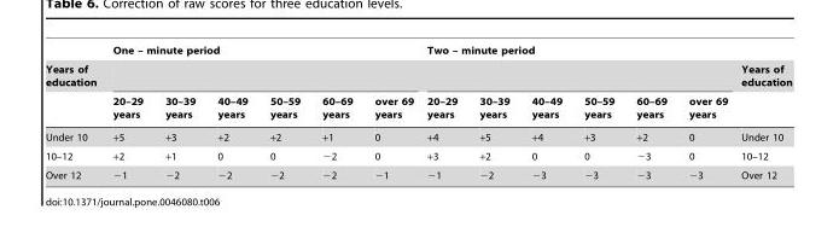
<table><thead><tr><td rowspan="3">Years of education</td><td colspan="6">One – minute period</td><td colspan="6">Two – minute period</td><td rowspan="3">Years of education</td></tr><tr><td rowspan="2">20–29 years</td><td rowspan="2">30–39 years</td><td rowspan="2">40–49 years</td><td rowspan="2">50–59 years</td><td rowspan="2">60–69 years</td><td rowspan="2">over 69 years</td><td rowspan="2">20–29 years</td><td rowspan="2">30–39 years</td><td rowspan="2">40–49 years</td><td rowspan="2">50–59 years</td><td rowspan="2">60–69 years</td><td rowspan="2">over 69 years</td></tr><tr></tr></thead><tbody><tr><td>Under 10</td><td>+5</td><td>+3</td><td>+2</td><td>+2</td><td>+1</td><td>0</td><td>+4</td><td>+5</td><td>+4</td><td>+3</td><td>+2</td><td>0</td><td>Under 10</td></tr><tr><td>10–12</td><td>+2</td><td>+1</td><td>0</td><td>0</td><td>−2</td><td>0</td><td>+3</td><td>+2</td><td>0</td><td>0</td><td>−3</td><td>0</td><td>10–12</td></tr><tr><td>Over 12</td><td>−1</td><td>−2</td><td>−2</td><td>−2</td><td>−2</td><td>−1</td><td>−1</td><td>−2</td><td>−3</td><td>−3</td><td>−3</td><td>−3</td><td>Over 12</td></tr></tbody></table>